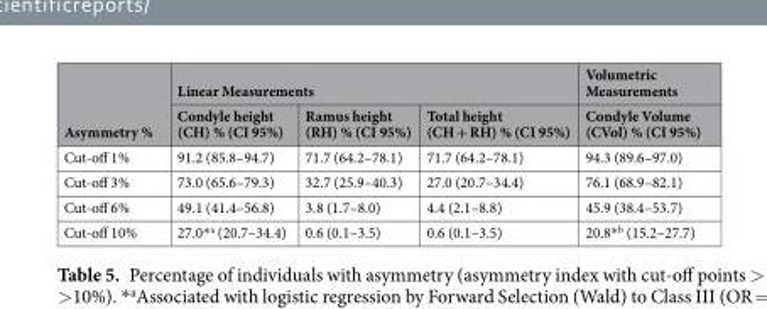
<table><thead><tr><td rowspan="2">Asymmetry %</td><td colspan="3">Linear Measurements</td><td rowspan="2">Volumetric Measurements Condyle Volume (CVol) % (CI 95%)</td></tr><tr><td>Condyle height (CH) % (CI 95%)</td><td>Ramus height (RH) % (CI 95%)</td><td>Total height (CH + RH) % (CI 95%)</td></tr></thead><tbody><tr><td>Cut-off 1%</td><td>91.2 (85.8–94.7)</td><td>71.7 (64.2–78.1)</td><td>71.7 (64.2–78.1)</td><td>94.3 (89.6–97.0)</td></tr><tr><td>Cut-off 3%</td><td>73.0 (65.6–79.3)</td><td>32.7 (25.9–40.3)</td><td>27.0 (20.7–34.4)</td><td>76.1 (68.9–82.1)</td></tr><tr><td>Cut-off 6%</td><td>49.1 (41.4–56.8)</td><td>3.8 (1.7–8.0)</td><td>4.4 (2.1–8.8)</td><td>45.9 (38.4–53.7)</td></tr><tr><td>Cut-off 10%</td><td>27.0*<sup>a</sup> (20.7–34.4)</td><td>0.6 (0.1–3.5)</td><td>0.6 (0.1–3.5)</td><td>20.8*<sup>b</sup> (15.2–27.7)</td></tr></tbody></table>